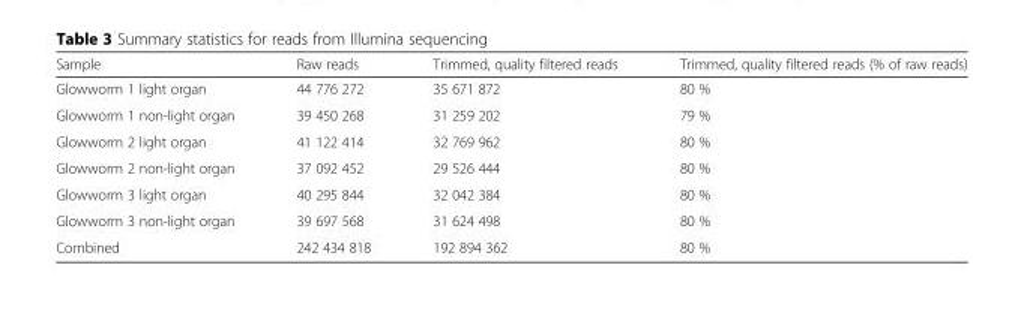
<table><thead><tr><td>Sample</td><td>Raw reads</td><td>Trimmed, quality filtered reads</td><td>Trimmed, quality filtered reads (% of raw reads)</td></tr></thead><tbody><tr><td>Glowworm 1 light organ</td><td>44 776 272</td><td>35 671 872</td><td>80 %</td></tr><tr><td>Glowworm 1 non-light organ</td><td>39 450 268</td><td>31 259 202</td><td>79 %</td></tr><tr><td>Glowworm 2 light organ</td><td>41 122 414</td><td>32 769 962</td><td>80 %</td></tr><tr><td>Glowworm 2 non-light organ</td><td>37 092 452</td><td>29 526 444</td><td>80 %</td></tr><tr><td>Glowworm 3 light organ</td><td>40 295 844</td><td>32 042 384</td><td>80 %</td></tr><tr><td>Glowworm 3 non-light organ</td><td>39 697 568</td><td>31 624 498</td><td>80 %</td></tr><tr><td>Combined</td><td>242 434 818</td><td>192 894 362</td><td>80 %</td></tr></tbody></table>